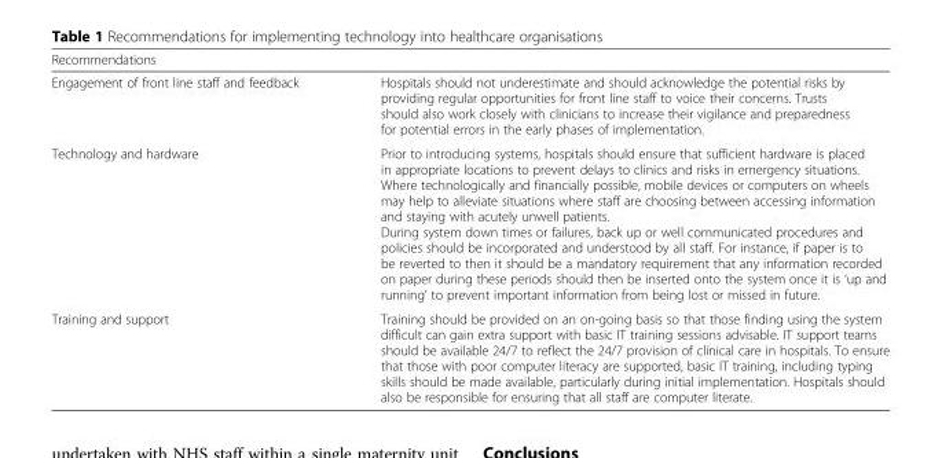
<table><thead><tr><td colspan="2">Recommendations</td></tr><tr><td>Engagement of front line staff and feedback</td><td>Hospitals should not underestimate and should acknowledge the potential risks by providing regular opportunities for front line staff to voice their concerns. Trusts should also work closely with clinicians to increase their vigilance and preparedness for potential errors in the early phases of implementation.</td></tr></thead><tbody><tr><td>Technology and hardware</td><td>Prior to introducing systems, hospitals should ensure that sufficient hardware is placed in appropriate locations to prevent delays to clinics and risks in emergency situations. Where technologically and financially possible, mobile devices or computers on wheels may help to alleviate situations where staff are choosing between accessing information and staying with acutely unwell patients. During system down times or failures, back up or well communicated procedures and policies should be incorporated and understood by all staff. For instance, if paper is to be reverted to then it should be a mandatory requirement that any information recorded on paper during these periods should then be inserted onto the system once it is ‘up and running’ to prevent important information from being lost or missed in future.</td></tr><tr><td>Training and support</td><td>Training should be provided on an on-going basis so that those finding using the system difficult can gain extra support with basic IT training sessions advisable. IT support teams should be available 24/7 to reflect the 24/7 provision of clinical care in hospitals. To ensure that those with poor computer literacy are supported, basic IT training, including typing skills should be made available, particularly during initial implementation. Hospitals should also be responsible for ensuring that all staff are computer literate.</td></tr></tbody></table>